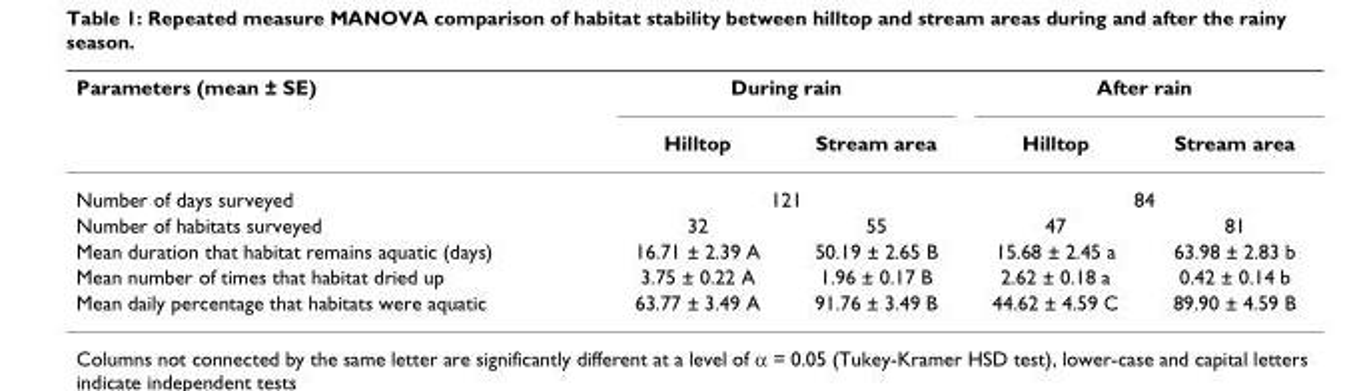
<table><thead><tr><td rowspan="2">Parameters (mean ± SE)</td><td colspan="2">During rain</td><td colspan="2">After rain</td></tr><tr><td>Hilltop</td><td>Stream area</td><td>Hilltop</td><td>Stream area</td></tr></thead><tbody><tr><td>Number of days surveyed</td><td colspan="2">121</td><td colspan="2">84</td></tr><tr><td>Number of habitats surveyed</td><td>32</td><td>55</td><td>47</td><td>81</td></tr><tr><td>Mean duration that habitat remains aquatic (days)</td><td>16.71 ± 2.39 A</td><td>50.19 ± 2.65 B</td><td>15.68 ± 2.45 a</td><td>63.98 ± 2.83 b</td></tr><tr><td>Mean number of times that habitat dried up</td><td>3.75 ± 0.22 A</td><td>1.96 ± 0.17 B</td><td>2.62 ± 0.18 a</td><td>0.42 ± 0.14 b</td></tr><tr><td>Mean daily percentage that habitats were aquatic</td><td>63.77 ± 3.49 A</td><td>91.76 ± 3.49 B</td><td>44.62 ± 4.59 C</td><td>89.90 ± 4.59 B</td></tr></tbody></table>